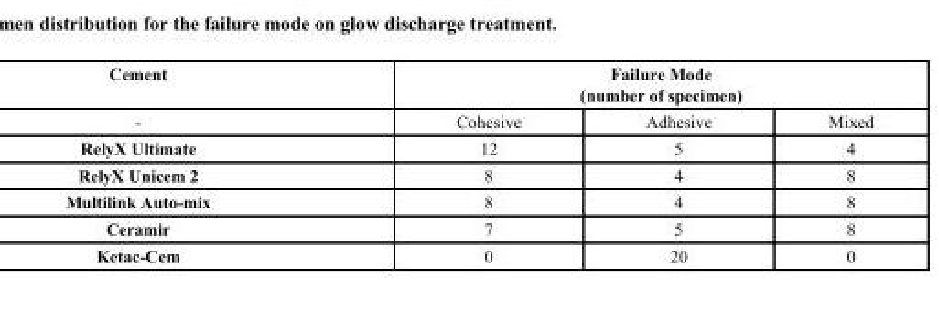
<table><thead><tr><td rowspan="2">Cement -</td><td colspan="3">Failure Mode (number of specimen)</td></tr><tr><td>Cohesive</td><td>Adhesive</td><td>Mixed</td></tr></thead><tbody><tr><td>RelyX Ultimate</td><td>12</td><td>5</td><td>4</td></tr><tr><td>RelyX Unicem 2</td><td>8</td><td>4</td><td>8</td></tr><tr><td>Multilink Auto-mix</td><td>8</td><td>4</td><td>8</td></tr><tr><td>Ceramir</td><td>7</td><td>5</td><td>8</td></tr><tr><td>Ketac-Cem</td><td>0</td><td>20</td><td>0</td></tr></tbody></table>